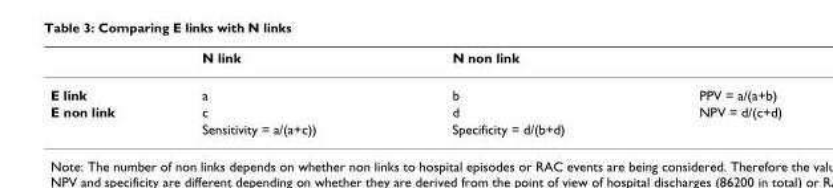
<table><thead><tr><td></td><td>N link</td><td>N non link</td><td></td></tr></thead><tbody><tr><td>E link</td><td>a</td><td>b</td><td>PPV = a/(a+b)</td></tr><tr><td rowspan="2">E non link</td><td>c</td><td>d</td><td>NPV = d/(c+d)</td></tr><tr><td>Sensitivity = a/(a+c))</td><td>Specificity = d/(b+d)</td><td></td></tr></tbody></table>